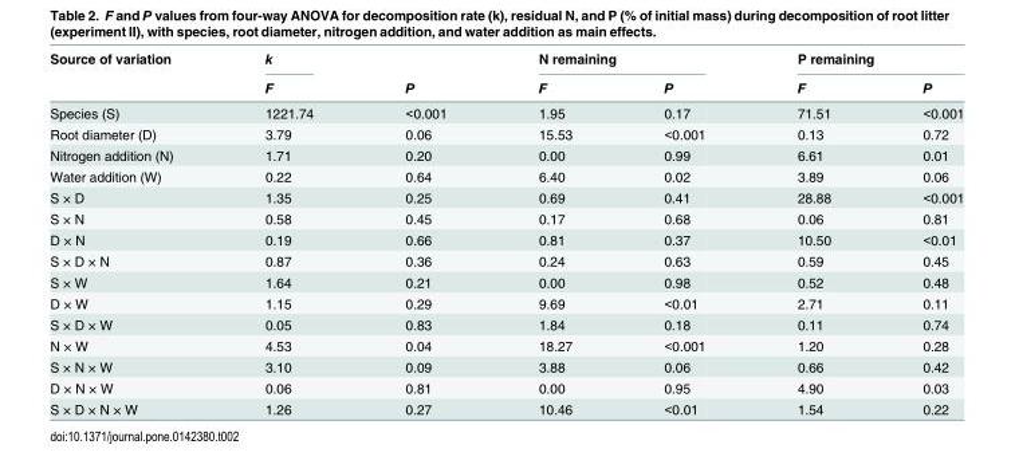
<table><thead><tr><td rowspan="2">Source of variation</td><td rowspan="2">k F</td><td rowspan="2">P</td><td colspan="2">N remaining</td><td colspan="2">P remaining</td></tr><tr><td>F</td><td>P</td><td>F</td><td>P</td></tr></thead><tbody><tr><td>Species (S)</td><td>1221.74</td><td>&lt;0.001</td><td>1.95</td><td>0.17</td><td>71.51</td><td>&lt;0.001</td></tr><tr><td>Root diameter (D)</td><td>3.79</td><td>0.06</td><td>15.53</td><td>&lt;0.001</td><td>0.13</td><td>0.72</td></tr><tr><td>Nitrogen addition (N)</td><td>1.71</td><td>0.20</td><td>0.00</td><td>0.99</td><td>6.61</td><td>0.01</td></tr><tr><td>Water addition (W)</td><td>0.22</td><td>0.64</td><td>6.40</td><td>0.02</td><td>3.89</td><td>0.06</td></tr><tr><td>S × D</td><td>1.35</td><td>0.25</td><td>0.69</td><td>0.41</td><td>28.88</td><td>&lt;0.001</td></tr><tr><td>S × N</td><td>0.58</td><td>0.45</td><td>0.17</td><td>0.68</td><td>0.06</td><td>0.81</td></tr><tr><td>D × N</td><td>0.19</td><td>0.66</td><td>0.81</td><td>0.37</td><td>10.50</td><td>&lt;0.01</td></tr><tr><td>S × D × N</td><td>0.87</td><td>0.36</td><td>0.24</td><td>0.63</td><td>0.59</td><td>0.45</td></tr><tr><td>S × W</td><td>1.64</td><td>0.21</td><td>0.00</td><td>0.98</td><td>0.52</td><td>0.48</td></tr><tr><td>D × W</td><td>1.15</td><td>0.29</td><td>9.69</td><td>&lt;0.01</td><td>2.71</td><td>0.11</td></tr><tr><td>S × D × W</td><td>0.05</td><td>0.83</td><td>1.84</td><td>0.18</td><td>0.11</td><td>0.74</td></tr><tr><td>N × W</td><td>4.53</td><td>0.04</td><td>18.27</td><td>&lt;0.001</td><td>1.20</td><td>0.28</td></tr><tr><td>S × N × W</td><td>3.10</td><td>0.09</td><td>3.88</td><td>0.06</td><td>0.66</td><td>0.42</td></tr><tr><td>D × N × W</td><td>0.06</td><td>0.81</td><td>0.00</td><td>0.95</td><td>4.90</td><td>0.03</td></tr><tr><td>S × D × N × W</td><td>1.26</td><td>0.27</td><td>10.46</td><td>&lt;0.01</td><td>1.54</td><td>0.22</td></tr></tbody></table>